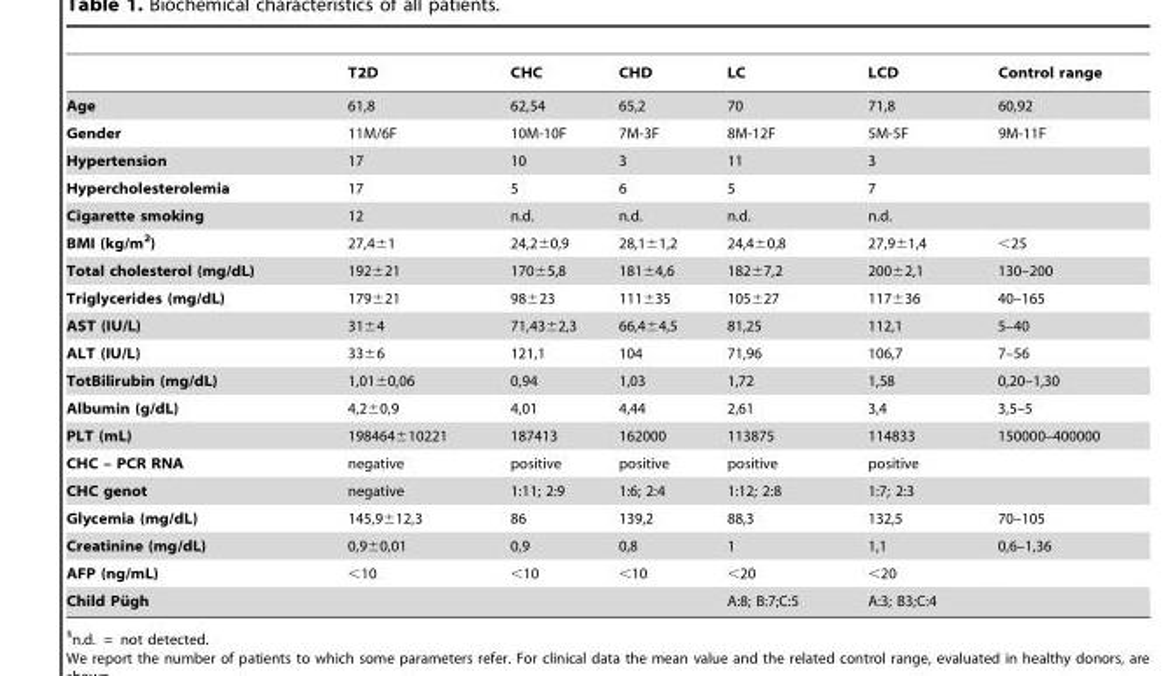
<table><thead><tr><td></td><td>T2D</td><td>CHC</td><td>CHD</td><td>LC</td><td>LCD</td><td>Control range</td></tr></thead><tbody><tr><td>Age</td><td>61,8</td><td>62,54</td><td>65,2</td><td>70</td><td>71,8</td><td>60,92</td></tr><tr><td>Gender</td><td>11M/6F</td><td>10M-10F</td><td>7M-3F</td><td>8M-12F</td><td>5M-5F</td><td>9M-11F</td></tr><tr><td>Hypertension</td><td>17</td><td>10</td><td>3</td><td>11</td><td>3</td><td></td></tr><tr><td>Hypercholesterolemia</td><td>17</td><td>5</td><td>6</td><td>5</td><td>7</td><td></td></tr><tr><td>Cigarette smoking</td><td>12</td><td>n.d.</td><td>n.d.</td><td>n.d.</td><td>n.d.</td><td></td></tr><tr><td>BMI (kg/m<sup>2</sup>)</td><td>27,4±1</td><td>24,2±0,9</td><td>28,1±1,2</td><td>24,4±0,8</td><td>27,9±1,4</td><td>&lt;25</td></tr><tr><td>Total cholesterol (mg/dL)</td><td>192±21</td><td>170±5,8</td><td>181±4,6</td><td>182±7,2</td><td>200±2,1</td><td>130–200</td></tr><tr><td>Triglycerides (mg/dL)</td><td>179±21</td><td>98±23</td><td>111±35</td><td>105±27</td><td>117±36</td><td>40–165</td></tr><tr><td>AST (IU/L)</td><td>31±4</td><td>71,43±2,3</td><td>66,4±4,5</td><td>81,25</td><td>112,1</td><td>5–40</td></tr><tr><td>ALT (IU/L)</td><td>33±6</td><td>121,1</td><td>104</td><td>71,96</td><td>106,7</td><td>7–56</td></tr><tr><td>TotBilirubin (mg/dL)</td><td>1,01±0,06</td><td>0,94</td><td>1,03</td><td>1,72</td><td>1,58</td><td>0,20–1,30</td></tr><tr><td>Albumin (g/dL)</td><td>4,2±0,9</td><td>4,01</td><td>4,44</td><td>2,61</td><td>3,4</td><td>3,5–5</td></tr><tr><td>PLT (mL)</td><td>198464±10221</td><td>187413</td><td>162000</td><td>113875</td><td>114833</td><td>150000–400000</td></tr><tr><td>CHC – PCR RNA</td><td>negative</td><td>positive</td><td>positive</td><td>positive</td><td>positive</td><td></td></tr><tr><td>CHC genot</td><td>negative</td><td>1:11; 2:9</td><td>1:6; 2:4</td><td>1:12; 2:8</td><td>1:7; 2:3</td><td></td></tr><tr><td>Glycemia (mg/dL)</td><td>145,9±12,3</td><td>86</td><td>139,2</td><td>88,3</td><td>132,5</td><td>70–105</td></tr><tr><td>Creatinine (mg/dL)</td><td>0,9±0,01</td><td>0,9</td><td>0,8</td><td>1</td><td>1,1</td><td>0,6–1,36</td></tr><tr><td>AFP (ng/mL)</td><td>&lt;10</td><td>&lt;10</td><td>&lt;10</td><td>&lt;20</td><td>&lt;20</td><td></td></tr><tr><td>Child Pu¨ gh</td><td></td><td></td><td></td><td>A:8; B:7;C:5</td><td>A:3; B3;C:4</td><td></td></tr></tbody></table>